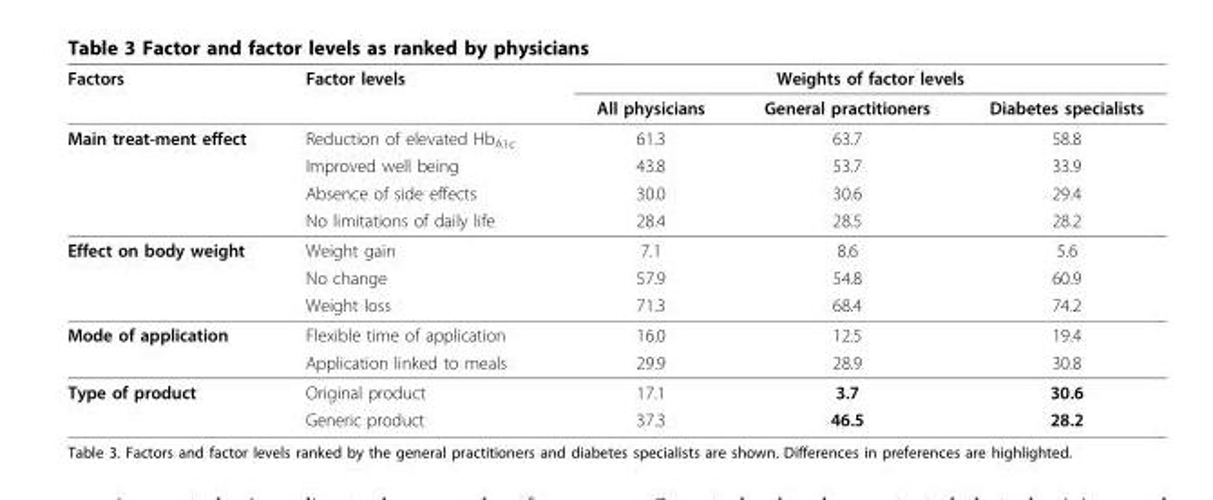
<table><thead><tr><td rowspan="2">Factors</td><td rowspan="2">Factor levels</td><td colspan="3">Weights of factor levels</td></tr><tr><td>All physicians</td><td>General practitioners</td><td>Diabetes specialists</td></tr></thead><tbody><tr><td rowspan="4">Main treat-ment effect</td><td>Reduction of elevated Hb<sub>A1c</sub></td><td>61.3</td><td>63.7</td><td>58.8</td></tr><tr><td>Improved well being</td><td>43.8</td><td>53.7</td><td>33.9</td></tr><tr><td>Absence of side effects</td><td>30.0</td><td>30.6</td><td>29.4</td></tr><tr><td>No limitations of daily life</td><td>28.4</td><td>28.5</td><td>28.2</td></tr><tr><td rowspan="3">Effect on body weight</td><td>Weight gain</td><td>7.1</td><td>8.6</td><td>5.6</td></tr><tr><td>No change</td><td>57.9</td><td>54.8</td><td>60.9</td></tr><tr><td>Weight loss</td><td>71.3</td><td>68.4</td><td>74.2</td></tr><tr><td rowspan="2">Mode of application</td><td>Flexible time of application</td><td>16.0</td><td>12.5</td><td>19.4</td></tr><tr><td>Application linked to meals</td><td>29.9</td><td>28.9</td><td>30.8</td></tr><tr><td rowspan="2">Type of product</td><td>Original product</td><td>17.1</td><td>3.7</td><td>30.6</td></tr><tr><td>Generic product</td><td>37.3</td><td>46.5</td><td>28.2</td></tr></tbody></table>